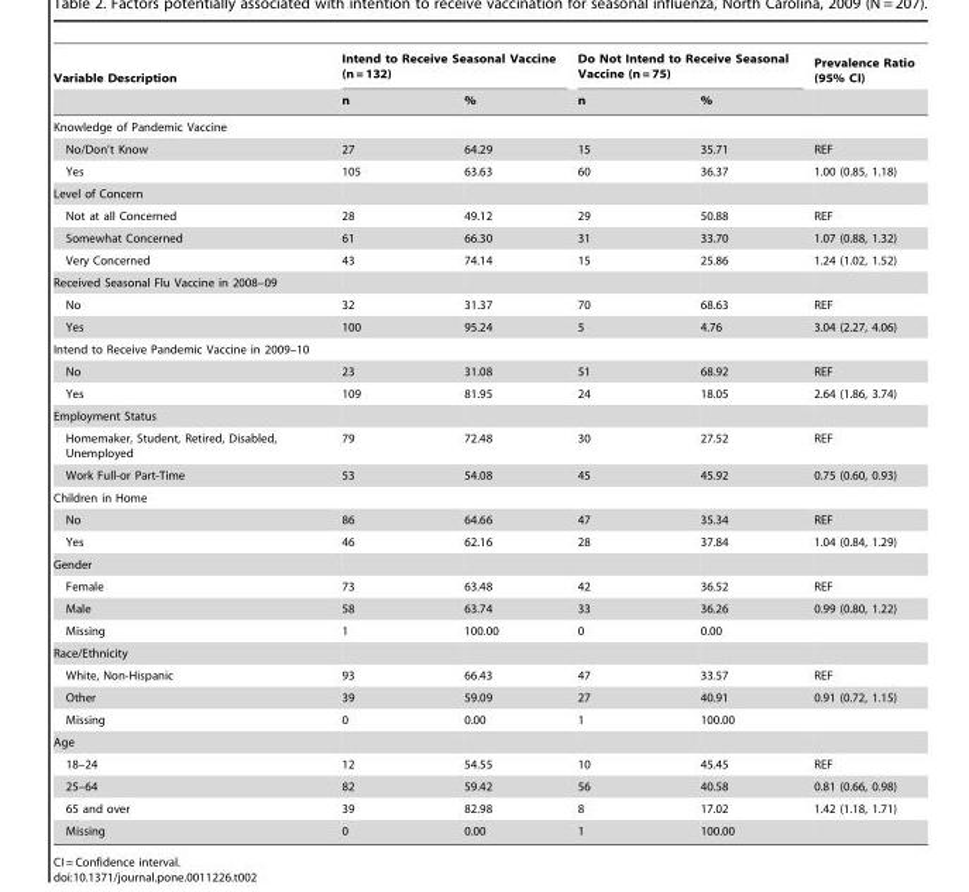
<table><thead><tr><td rowspan="2">Variable Description</td><td colspan="2">Intend to Receive Seasonal Vaccine (n = 132)</td><td colspan="2">Do Not Intend to Receive Seasonal Vaccine (n = 75)</td><td rowspan="2">Prevalence Ratio (95% CI)</td></tr><tr><td>n</td><td>%</td><td>n</td><td>%</td></tr></thead><tbody><tr><td colspan="6">Knowledge of Pandemic Vaccine</td></tr><tr><td>No/Don’t Know</td><td>27</td><td>64.29</td><td>15</td><td>35.71</td><td>REF</td></tr><tr><td>Yes</td><td>105</td><td>63.63</td><td>60</td><td>36.37</td><td>1.00 (0.85, 1.18)</td></tr><tr><td colspan="6">Level of Concern</td></tr><tr><td>Not at all Concerned</td><td>28</td><td>49.12</td><td>29</td><td>50.88</td><td>REF</td></tr><tr><td>Somewhat Concerned</td><td>61</td><td>66.30</td><td>31</td><td>33.70</td><td>1.07 (0.88, 1.32)</td></tr><tr><td>Very Concerned</td><td>43</td><td>74.14</td><td>15</td><td>25.86</td><td>1.24 (1.02, 1.52)</td></tr><tr><td colspan="6">Received Seasonal Flu Vaccine in 2008–09</td></tr><tr><td>No</td><td>32</td><td>31.37</td><td>70</td><td>68.63</td><td>REF</td></tr><tr><td>Yes</td><td>100</td><td>95.24</td><td>5</td><td>4.76</td><td>3.04 (2.27, 4.06)</td></tr><tr><td colspan="6">Intend to Receive Pandemic Vaccine in 2009–10</td></tr><tr><td>No</td><td>23</td><td>31.08</td><td>51</td><td>68.92</td><td>REF</td></tr><tr><td>Yes</td><td>109</td><td>81.95</td><td>24</td><td>18.05</td><td>2.64 (1.86, 3.74)</td></tr><tr><td colspan="6">Employment Status</td></tr><tr><td>Homemaker, Student, Retired, Disabled, Unemployed</td><td>79</td><td>72.48</td><td>30</td><td>27.52</td><td>REF</td></tr><tr><td>Work Full-or Part-Time</td><td>53</td><td>54.08</td><td>45</td><td>45.92</td><td>0.75 (0.60, 0.93)</td></tr><tr><td colspan="6">Children in Home</td></tr><tr><td>No</td><td>86</td><td>64.66</td><td>47</td><td>35.34</td><td>REF</td></tr><tr><td>Yes</td><td>46</td><td>62.16</td><td>28</td><td>37.84</td><td>1.04 (0.84, 1.29)</td></tr><tr><td colspan="6">Gender</td></tr><tr><td>Female</td><td>73</td><td>63.48</td><td>42</td><td>36.52</td><td>REF</td></tr><tr><td>Male</td><td>58</td><td>63.74</td><td>33</td><td>36.26</td><td>0.99 (0.80, 1.22)</td></tr><tr><td>Missing</td><td>1</td><td>100.00</td><td>0</td><td>0.00</td><td></td></tr><tr><td colspan="6">Race/Ethnicity</td></tr><tr><td>White, Non-Hispanic</td><td>93</td><td>66.43</td><td>47</td><td>33.57</td><td>REF</td></tr><tr><td>Other</td><td>39</td><td>59.09</td><td>27</td><td>40.91</td><td>0.91 (0.72, 1.15)</td></tr><tr><td>Missing</td><td>0</td><td>0.00</td><td>1</td><td>100.00</td><td></td></tr><tr><td colspan="6">Age</td></tr><tr><td>18–24</td><td>12</td><td>54.55</td><td>10</td><td>45.45</td><td>REF</td></tr><tr><td>25–64</td><td>82</td><td>59.42</td><td>56</td><td>40.58</td><td>0.81 (0.66, 0.98)</td></tr><tr><td>65 and over</td><td>39</td><td>82.98</td><td>8</td><td>17.02</td><td>1.42 (1.18, 1.71)</td></tr><tr><td>Missing</td><td>0</td><td>0.00</td><td>1</td><td>100.00</td><td></td></tr></tbody></table>